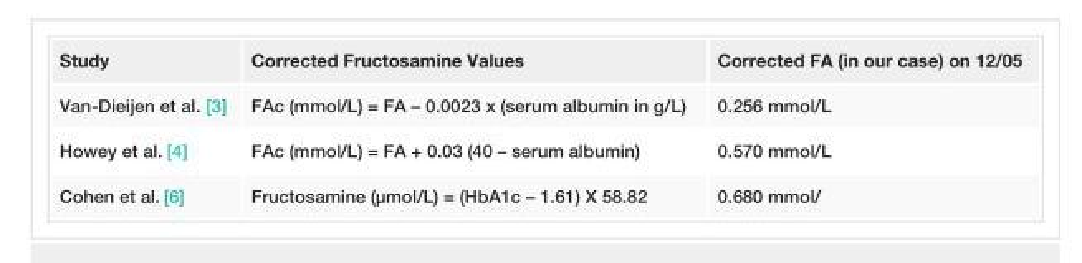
<table><tbody><tr><td>Study</td><td>Corrected Fructosamine Values</td><td>Corrected FA (in our case) on 12/05</td></tr><tr><td>Van-Dieijen et al. [3]</td><td>FAc (mmol/L) = FA – 0.0023 x (serum albumin in g/L)</td><td>0.256 mmol/L</td></tr><tr><td>Howey et al. [4]</td><td>FAc (mmol/L) = FA + 0.03 (40 – serum albumin)</td><td>0.570 mmol/L</td></tr><tr><td>Cohen et al. [6]</td><td>Fructosamine (µmol/L) = (HbA1c – 1.61) X 58.82</td><td>0.680 mmol/</td></tr></tbody></table>